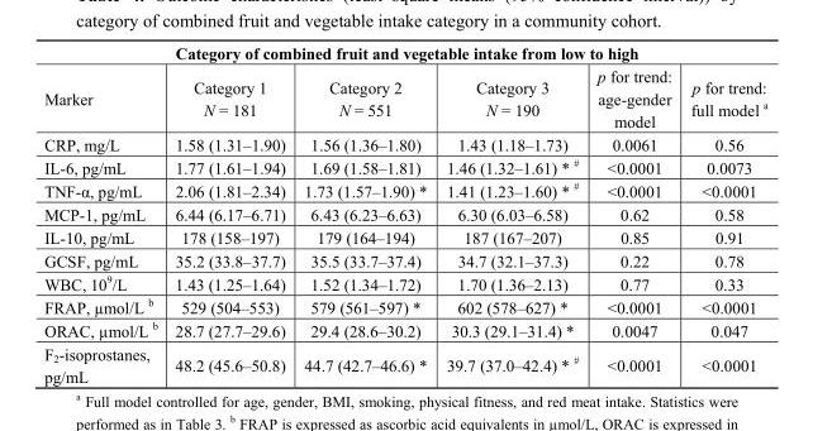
<table><tbody><tr><td colspan="6">Category of combined fruit and vegetable intake from low to high</td></tr><tr><td>Marker</td><td>Category 1 N = 181</td><td>Category 2 N = 551</td><td>Category 3 N = 190</td><td>p for trend: age-gender model</td><td>p for trend: full model <sup>a</sup></td></tr><tr><td>CRP, mg/L</td><td>1.58 (1.31–1.90)</td><td>1.56 (1.36–1.80)</td><td>1.43 (1.18–1.73)</td><td>0.0061</td><td>0.56</td></tr><tr><td>IL-6, pg/mL</td><td>1.77 (1.61–1.94)</td><td>1.69 (1.58–1.81)</td><td>1.46 (1.32–1.61) * <sup>#</sup></td><td>&lt;0.0001</td><td>0.0073</td></tr><tr><td>TNF-α, pg/mL</td><td>2.06 (1.81–2.34)</td><td>1.73 (1.57–1.90) *</td><td>1.41 (1.23–1.60) * <sup>#</sup></td><td>&lt;0.0001</td><td>&lt;0.0001</td></tr><tr><td>MCP-1, pg/mL</td><td>6.44 (6.17–6.71)</td><td>6.43 (6.23–6.63)</td><td>6.30 (6.03–6.58)</td><td>0.62</td><td>0.58</td></tr><tr><td>IL-10, pg/mL</td><td>178 (158–197)</td><td>179 (164–194)</td><td>187 (167–207)</td><td>0.85</td><td>0.91</td></tr><tr><td>GCSF, pg/mL</td><td>35.2 (33.8–37.7)</td><td>35.5 (33.7–37.4)</td><td>34.7 (32.1–37.3)</td><td>0.22</td><td>0.78</td></tr><tr><td>WBC, 10<sup>9</sup>/L</td><td>1.43 (1.25–1.64)</td><td>1.52 (1.34–1.72)</td><td>1.70 (1.36–2.13)</td><td>0.77</td><td>0.33</td></tr><tr><td>FRAP, µmol/L <sup>b</sup></td><td>529 (504–553)</td><td>579 (561–597) *</td><td>602 (578–627) *</td><td>&lt;0.0001</td><td>&lt;0.0001</td></tr><tr><td>ORAC, µmol/L <sup>b</sup></td><td>28.7 (27.7–29.6)</td><td>29.4 (28.6–30.2)</td><td>30.3 (29.1–31.4) *</td><td>0.0047</td><td>0.047</td></tr><tr><td>F<sub>2</sub>-isoprostanes, pg/mL</td><td>48.2 (45.6–50.8)</td><td>44.7 (42.7–46.6) *</td><td>39.7 (37.0–42.4) * <sup>#</sup></td><td>&lt;0.0001</td><td>&lt;0.0001</td></tr></tbody></table>